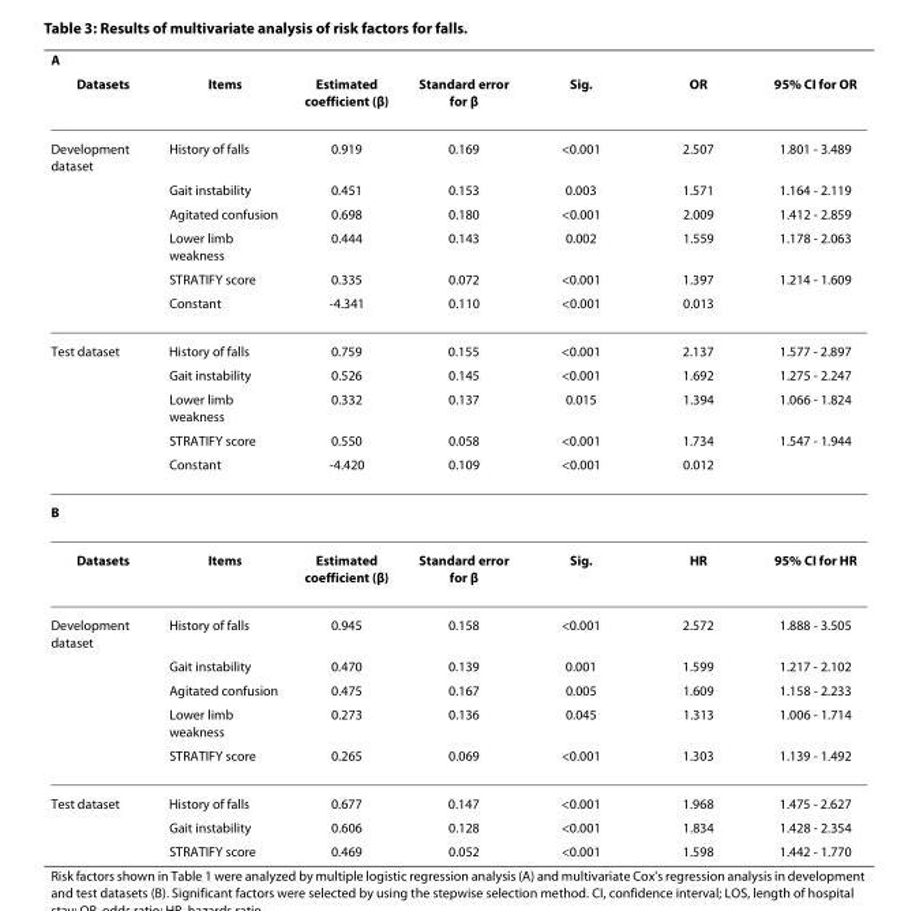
<table><thead><tr><td colspan="7">A</td></tr><tr><td>Datasets</td><td>Items</td><td>Estimated coefficient (β)</td><td>Standard error for β</td><td>Sig.</td><td>OR</td><td>95% CI for OR</td></tr></thead><tbody><tr><td rowspan="6">Development dataset</td><td>History of falls</td><td>0.919</td><td>0.169</td><td>&lt;0.001</td><td>2.507</td><td>1.801 - 3.489</td></tr><tr><td>Gait instability</td><td>0.451</td><td>0.153</td><td>0.003</td><td>1.571</td><td>1.164 - 2.119</td></tr><tr><td>Agitated confusion</td><td>0.698</td><td>0.180</td><td>&lt;0.001</td><td>2.009</td><td>1.412 - 2.859</td></tr><tr><td>Lower limb weakness</td><td>0.444</td><td>0.143</td><td>0.002</td><td>1.559</td><td>1.178 - 2.063</td></tr><tr><td>STRATIFY score</td><td>0.335</td><td>0.072</td><td>&lt;0.001</td><td>1.397</td><td>1.214 - 1.609</td></tr><tr><td>Constant</td><td>-4.341</td><td>0.110</td><td>&lt;0.001</td><td>0.013</td><td></td></tr><tr><td rowspan="5">Test dataset</td><td>History of falls</td><td>0.759</td><td>0.155</td><td>&lt;0.001</td><td>2.137</td><td>1.577 - 2.897</td></tr><tr><td>Gait instability</td><td>0.526</td><td>0.145</td><td>&lt;0.001</td><td>1.692</td><td>1.275 - 2.247</td></tr><tr><td>Lower limb weakness</td><td>0.332</td><td>0.137</td><td>0.015</td><td>1.394</td><td>1.066 - 1.824</td></tr><tr><td>STRATIFY score</td><td>0.550</td><td>0.058</td><td>&lt;0.001</td><td>1.734</td><td>1.547 - 1.944</td></tr><tr><td>Constant</td><td>-4.420</td><td>0.109</td><td>&lt;0.001</td><td>0.012</td><td></td></tr><tr><td colspan="7">B</td></tr><tr><td>Datasets</td><td>Items</td><td>Estimated coefficient (β)</td><td>Standard error for β</td><td>Sig.</td><td>HR</td><td>95% CI for HR</td></tr><tr><td rowspan="5">Development dataset</td><td>History of falls</td><td>0.945</td><td>0.158</td><td>&lt;0.001</td><td>2.572</td><td>1.888 - 3.505</td></tr><tr><td>Gait instability</td><td>0.470</td><td>0.139</td><td>0.001</td><td>1.599</td><td>1.217 - 2.102</td></tr><tr><td>Agitated confusion</td><td>0.475</td><td>0.167</td><td>0.005</td><td>1.609</td><td>1.158 - 2.233</td></tr><tr><td>Lower limb weakness</td><td>0.273</td><td>0.136</td><td>0.045</td><td>1.313</td><td>1.006 - 1.714</td></tr><tr><td>STRATIFY score</td><td>0.265</td><td>0.069</td><td>&lt;0.001</td><td>1.303</td><td>1.139 - 1.492</td></tr><tr><td rowspan="3">Test dataset</td><td>History of falls</td><td>0.677</td><td>0.147</td><td>&lt;0.001</td><td>1.968</td><td>1.475 - 2.627</td></tr><tr><td>Gait instability</td><td>0.606</td><td>0.128</td><td>&lt;0.001</td><td>1.834</td><td>1.428 - 2.354</td></tr><tr><td>STRATIFY score</td><td>0.469</td><td>0.052</td><td>&lt;0.001</td><td>1.598</td><td>1.442 - 1.770</td></tr></tbody></table>